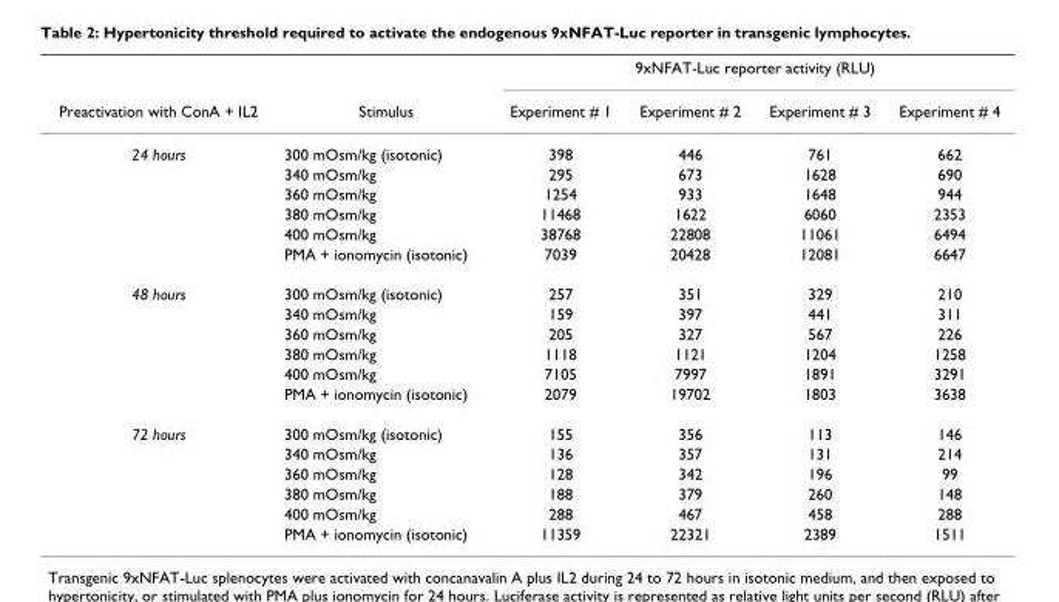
<table><thead><tr><td rowspan="2">Preactivation with ConA + IL2</td><td rowspan="2">Stimulus</td><td colspan="4">9xNFAT-Luc reporter activity (RLU)</td></tr><tr><td>Experiment # 1</td><td>Experiment # 2</td><td>Experiment # 3</td><td>Experiment # 4</td></tr></thead><tbody><tr><td rowspan="6">24 hours</td><td>300 mOsm/kg (isotonic)</td><td>398</td><td>446</td><td>761</td><td>662</td></tr><tr><td>340 mOsm/kg</td><td>295</td><td>673</td><td>1628</td><td>690</td></tr><tr><td>360 mOsm/kg</td><td>1254</td><td>933</td><td>1648</td><td>944</td></tr><tr><td>380 mOsm/kg</td><td>11468</td><td>1622</td><td>6060</td><td>2353</td></tr><tr><td>400 mOsm/kg</td><td>38768</td><td>22808</td><td>11061</td><td>6494</td></tr><tr><td>PMA + ionomycin (isotonic)</td><td>7039</td><td>20428</td><td>12081</td><td>6647</td></tr><tr><td rowspan="6">48 hours</td><td>300 mOsm/kg (isotonic)</td><td>257</td><td>351</td><td>329</td><td>210</td></tr><tr><td>340 mOsm/kg</td><td>159</td><td>397</td><td>441</td><td>311</td></tr><tr><td>360 mOsm/kg</td><td>205</td><td>327</td><td>567</td><td>226</td></tr><tr><td>380 mOsm/kg</td><td>1118</td><td>1121</td><td>1204</td><td>1258</td></tr><tr><td>400 mOsm/kg</td><td>7105</td><td>7997</td><td>1891</td><td>3291</td></tr><tr><td>PMA + ionomycin (isotonic)</td><td>2079</td><td>19702</td><td>1803</td><td>3638</td></tr><tr><td rowspan="6">72 hours</td><td>300 mOsm/kg (isotonic)</td><td>155</td><td>356</td><td>113</td><td>146</td></tr><tr><td>340 mOsm/kg</td><td>136</td><td>357</td><td>131</td><td>214</td></tr><tr><td>360 mOsm/kg</td><td>128</td><td>342</td><td>196</td><td>99</td></tr><tr><td>380 mOsm/kg</td><td>188</td><td>379</td><td>260</td><td>148</td></tr><tr><td>400 mOsm/kg</td><td>288</td><td>467</td><td>458</td><td>288</td></tr><tr><td>PMA + ionomycin (isotonic)</td><td>11359</td><td>22321</td><td>2389</td><td>1511</td></tr></tbody></table>